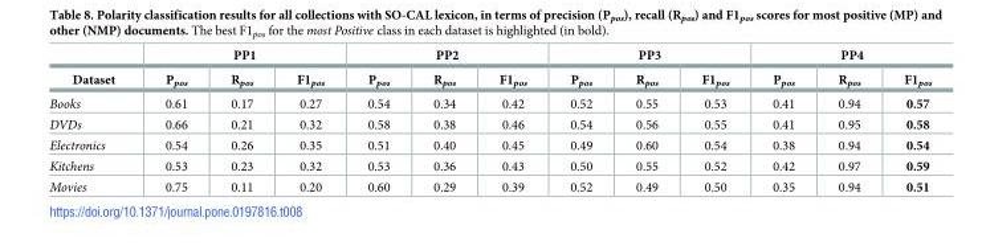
<table><thead><tr><td rowspan="2">Dataset</td><td colspan="3">PP1</td><td colspan="3">PP2</td><td colspan="3">PP3</td><td colspan="3">PP4</td></tr><tr><td>P<sub>pos</sub></td><td>R<sub>pos</sub></td><td>F1<sub>pos</sub></td><td>P<sub>pos</sub></td><td>R<sub>pos</sub></td><td>F1<sub>pos</sub></td><td>P<sub>pos</sub></td><td>R<sub>pos</sub></td><td>F1<sub>pos</sub></td><td>P<sub>pos</sub></td><td>R<sub>pos</sub></td><td>F1<sub>pos</sub></td></tr></thead><tbody><tr><td>Books</td><td>0.61</td><td>0.17</td><td>0.27</td><td>0.54</td><td>0.34</td><td>0.42</td><td>0.52</td><td>0.55</td><td>0.53</td><td>0.41</td><td>0.94</td><td>0.57</td></tr><tr><td>DVDs</td><td>0.66</td><td>0.21</td><td>0.32</td><td>0.58</td><td>0.38</td><td>0.46</td><td>0.54</td><td>0.56</td><td>0.55</td><td>0.41</td><td>0.95</td><td>0.58</td></tr><tr><td>Electronics</td><td>0.54</td><td>0.26</td><td>0.35</td><td>0.51</td><td>0.40</td><td>0.45</td><td>0.49</td><td>0.60</td><td>0.54</td><td>0.38</td><td>0.94</td><td>0.54</td></tr><tr><td>Kitchens</td><td>0.53</td><td>0.23</td><td>0.32</td><td>0.53</td><td>0.36</td><td>0.43</td><td>0.50</td><td>0.55</td><td>0.52</td><td>0.42</td><td>0.97</td><td>0.59</td></tr><tr><td>Movies</td><td>0.75</td><td>0.11</td><td>0.20</td><td>0.60</td><td>0.29</td><td>0.39</td><td>0.52</td><td>0.49</td><td>0.50</td><td>0.35</td><td>0.94</td><td>0.51</td></tr></tbody></table>